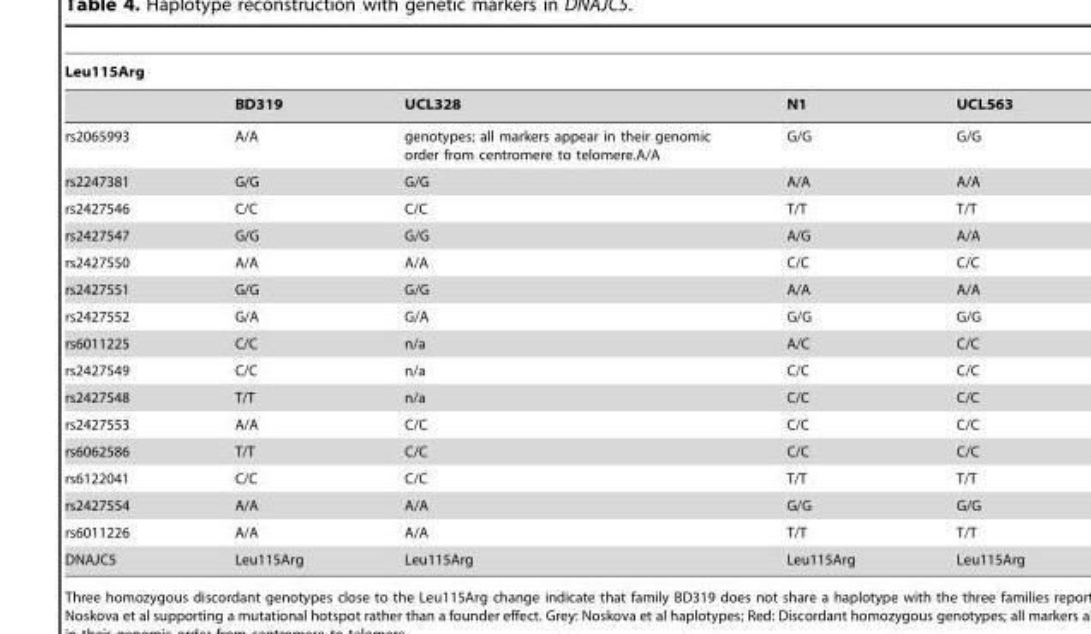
<table><thead><tr><td colspan="5">Leu115Arg</td></tr><tr><td></td><td>BD319</td><td>UCL328</td><td>N1</td><td>UCL563</td></tr></thead><tbody><tr><td>rs2065993</td><td>A/A</td><td>genotypes; all markers appear in their genomic order from centromere to telomere.A/A</td><td>G/G</td><td>G/G</td></tr><tr><td>rs2247381</td><td>G/G</td><td>G/G</td><td>A/A</td><td>A/A</td></tr><tr><td>rs2427546</td><td>C/C</td><td>C/C</td><td>T/T</td><td>T/T</td></tr><tr><td>rs2427547</td><td>G/G</td><td>G/G</td><td>A/G</td><td>A/A</td></tr><tr><td>rs2427550</td><td>A/A</td><td>A/A</td><td>C/C</td><td>C/C</td></tr><tr><td>rs2427551</td><td>G/G</td><td>G/G</td><td>A/A</td><td>A/A</td></tr><tr><td>rs2427552</td><td>G/A</td><td>G/A</td><td>G/G</td><td>G/G</td></tr><tr><td>rs6011225</td><td>C/C</td><td>n/a</td><td>A/C</td><td>C/C</td></tr><tr><td>rs2427549</td><td>C/C</td><td>n/a</td><td>C/C</td><td>C/C</td></tr><tr><td>rs2427548</td><td>T/T</td><td>n/a</td><td>C/C</td><td>C/C</td></tr><tr><td>rs2427553</td><td>A/A</td><td>C/C</td><td>C/C</td><td>C/C</td></tr><tr><td>rs6062586</td><td>T/T</td><td>C/C</td><td>C/C</td><td>C/C</td></tr><tr><td>rs6122041</td><td>C/C</td><td>C/C</td><td>T/T</td><td>T/T</td></tr><tr><td>rs2427554</td><td>A/A</td><td>A/A</td><td>G/G</td><td>G/G</td></tr><tr><td>rs6011226</td><td>A/A</td><td>A/A</td><td>T/T</td><td>T/T</td></tr><tr><td>DNAJC5</td><td>Leu115Arg</td><td>Leu115Arg</td><td>Leu115Arg</td><td>Leu115Arg</td></tr></tbody></table>